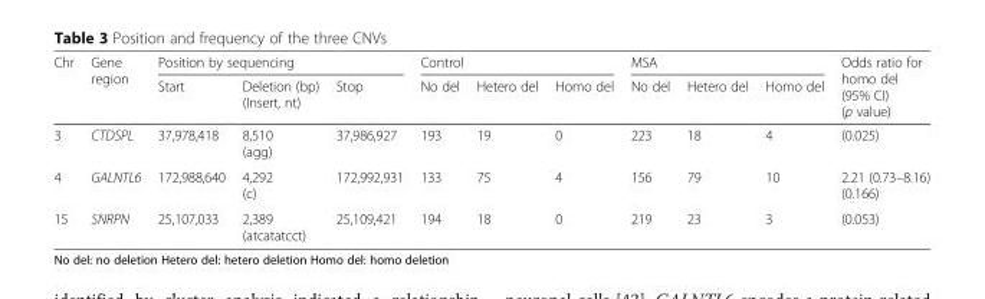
<table><thead><tr><td rowspan="2">Chr</td><td rowspan="2">Gene region</td><td colspan="3">Position by sequencing</td><td colspan="3">Control</td><td colspan="3">MSA</td><td rowspan="2">Odds ratio for homo del (95% CI) (p value)</td></tr><tr><td>Start</td><td>Deletion (bp) (Insert, nt)</td><td>Stop</td><td>No del</td><td>Hetero del</td><td>Homo del</td><td>No del</td><td>Hetero del</td><td>Homo del</td></tr></thead><tbody><tr><td>3</td><td>CTDSPL</td><td>37,978,418</td><td>8,510 (agg)</td><td>37,986,927</td><td>193</td><td>19</td><td>0</td><td>223</td><td>18</td><td>4</td><td>(0.025)</td></tr><tr><td>4</td><td>GALNTL6</td><td>172,988,640</td><td>4,292 (c)</td><td>172,992,931</td><td>133</td><td>75</td><td>4</td><td>156</td><td>79</td><td>10</td><td>2.21 (0.73–8.16) (0.166)</td></tr><tr><td>15</td><td>SNRPN</td><td>25,107,033</td><td>2,389 (atcatatcct)</td><td>25,109,421</td><td>194</td><td>18</td><td>0</td><td>219</td><td>23</td><td>3</td><td>(0.053)</td></tr></tbody></table>